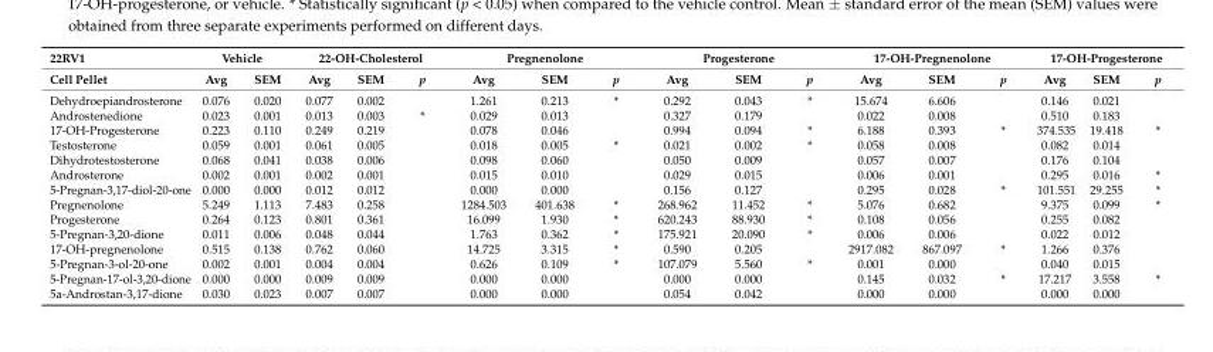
<table><thead><tr><td rowspan="2">22RV1 Cell Pellet</td><td colspan="2">Vehicle</td><td colspan="3">22-OH-Cholesterol</td><td colspan="3">Pregnenolone</td><td colspan="3">Progesterone</td><td colspan="3">17-OH-Pregnenolone</td><td colspan="3">17-OH-Progesterone</td></tr><tr><td>Avg</td><td>SEM</td><td>Avg</td><td>SEM</td><td>p</td><td>Avg</td><td>SEM</td><td>p</td><td>Avg</td><td>SEM</td><td>p</td><td>Avg</td><td>SEM</td><td>p</td><td>Avg</td><td>SEM</td><td>p</td></tr></thead><tbody><tr><td>Dehydroepiandrosterone</td><td>0.076</td><td>0.020</td><td>0.077</td><td>0.002</td><td></td><td>1.261</td><td>0.213</td><td>*</td><td>0.292</td><td>0.043</td><td>*</td><td>15.674</td><td>6.606</td><td></td><td>0.146</td><td>0.021</td><td></td></tr><tr><td>Androstenedione</td><td>0.023</td><td>0.001</td><td>0.013</td><td>0.003</td><td>*</td><td>0.029</td><td>0.013</td><td></td><td>0.327</td><td>0.179</td><td></td><td>0.022</td><td>0.008</td><td></td><td>0.510</td><td>0.183</td><td></td></tr><tr><td>17-OH-Progesterone</td><td>0.223</td><td>0.110</td><td>0.249</td><td>0.219</td><td></td><td>0.078</td><td>0.046</td><td></td><td>0.994</td><td>0.094</td><td>*</td><td>6.188</td><td>0.393</td><td>*</td><td>374.535</td><td>19.418</td><td>*</td></tr><tr><td>Testosterone</td><td>0.059</td><td>0.001</td><td>0.061</td><td>0.005</td><td></td><td>0.018</td><td>0.005</td><td>*</td><td>0.021</td><td>0.002</td><td>*</td><td>0.058</td><td>0.008</td><td></td><td>0.082</td><td>0.014</td><td></td></tr><tr><td>Dihydrotestosterone</td><td>0.068</td><td>0.041</td><td>0.038</td><td>0.006</td><td></td><td>0.098</td><td>0.060</td><td></td><td>0.050</td><td>0.009</td><td></td><td>0.057</td><td>0.007</td><td></td><td>0.176</td><td>0.104</td><td></td></tr><tr><td>Androsterone</td><td>0.002</td><td>0.001</td><td>0.002</td><td>0.001</td><td></td><td>0.015</td><td>0.010</td><td></td><td>0.029</td><td>0.015</td><td></td><td>0.006</td><td>0.001</td><td></td><td>0.295</td><td>0.016</td><td>*</td></tr><tr><td>5-Pregnan-3,17-diol-20-one</td><td>0.000</td><td>0.000</td><td>0.012</td><td>0.012</td><td></td><td>0.000</td><td>0.000</td><td></td><td>0.156</td><td>0.127</td><td></td><td>0.295</td><td>0.028</td><td>*</td><td>101.551</td><td>29.255</td><td>*</td></tr><tr><td>Pregnenolone</td><td>5.249</td><td>1.113</td><td>7.483</td><td>0.258</td><td></td><td>1284.503</td><td>401.638</td><td>*</td><td>268.962</td><td>11.452</td><td>*</td><td>5.076</td><td>0.682</td><td></td><td>9.375</td><td>0.099</td><td>*</td></tr><tr><td>Progesterone</td><td>0.264</td><td>0.123</td><td>0.801</td><td>0.361</td><td></td><td>16.099</td><td>1.930</td><td>*</td><td>620.243</td><td>88.930</td><td>*</td><td>0.108</td><td>0.056</td><td></td><td>0.255</td><td>0.082</td><td></td></tr><tr><td>5-Pregnan-3,20-dione</td><td>0.011</td><td>0.006</td><td>0.048</td><td>0.044</td><td></td><td>1.763</td><td>0.362</td><td>*</td><td>175.921</td><td>20.090</td><td>*</td><td>0.006</td><td>0.006</td><td></td><td>0.022</td><td>0.012</td><td></td></tr><tr><td>17-OH-pregnenolone</td><td>0.515</td><td>0.138</td><td>0.762</td><td>0.060</td><td></td><td>14.725</td><td>3.315</td><td>*</td><td>0.590</td><td>0.205</td><td></td><td>2917.082</td><td>867.097</td><td>*</td><td>1.266</td><td>0.376</td><td></td></tr><tr><td>5-Pregnan-3-ol-20-one</td><td>0.002</td><td>0.001</td><td>0.004</td><td>0.004</td><td></td><td>0.626</td><td>0.109</td><td>*</td><td>107.079</td><td>5.560</td><td>*</td><td>0.001</td><td>0.000</td><td></td><td>0.040</td><td>0.015</td><td></td></tr><tr><td>5-Pregnan-17-ol-3,20-dione</td><td>0.000</td><td>0.000</td><td>0.009</td><td>0.009</td><td></td><td>0.000</td><td>0.000</td><td></td><td>0.000</td><td>0.000</td><td></td><td>0.145</td><td>0.032</td><td>*</td><td>17.217</td><td>3.558</td><td>*</td></tr><tr><td>5a-Androstan-3,17-dione</td><td>0.030</td><td>0.023</td><td>0.007</td><td>0.007</td><td></td><td>0.000</td><td>0.000</td><td></td><td>0.054</td><td>0.042</td><td></td><td>0.000</td><td>0.000</td><td></td><td>0.000</td><td>0.000</td><td></td></tr></tbody></table>